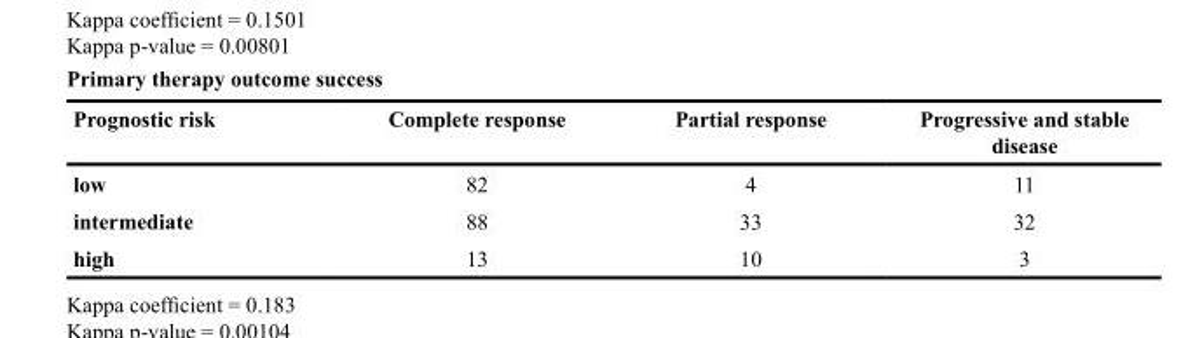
<table><thead><tr><td colspan="4">Primary therapy outcome success</td></tr><tr><td>Prognostic risk</td><td>Complete response</td><td>Partial response</td><td>Progressive and stable disease</td></tr></thead><tbody><tr><td>low</td><td>82</td><td>4</td><td>11</td></tr><tr><td>intermediate</td><td>88</td><td>33</td><td>32</td></tr><tr><td>high</td><td>13</td><td>10</td><td>3</td></tr></tbody></table>